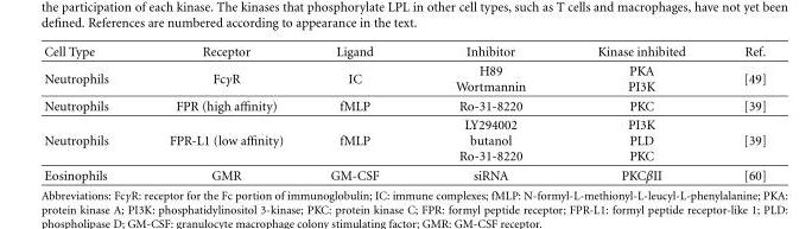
<table><thead><tr><td>Cell Type</td><td>Receptor</td><td>Ligand</td><td>Inhibitor</td><td>Kinase inhibited</td><td>Ref.</td></tr></thead><tbody><tr><td>Neutrophils</td><td>FcγR</td><td>IC</td><td>H89 Wortmannin</td><td>PKA PI3K</td><td>[49]</td></tr><tr><td>Neutrophils</td><td>FPR (high affinity)</td><td>fMLP</td><td>Ro-31-8220</td><td>PKC</td><td>[39]</td></tr><tr><td>Neutrophils</td><td>FPR-L1 (low affinity)</td><td>fMLP</td><td>LY294002 butanol Ro-31-8220</td><td>PI3K PLD PKC</td><td>[39]</td></tr><tr><td>Eosinophils</td><td>GMR</td><td>GM-CSF</td><td>siRNA</td><td>PKCβII</td><td>[60]</td></tr></tbody></table>